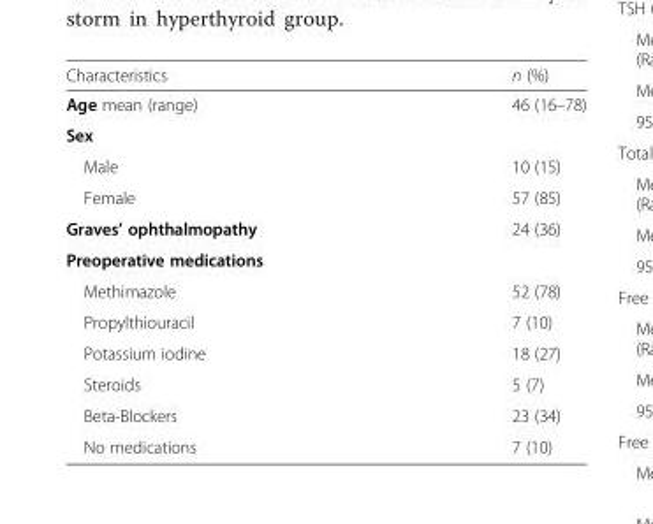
<table><thead><tr><td>Characteristics</td><td>n (%)</td></tr></thead><tbody><tr><td>Age mean (range)</td><td>46 (16–78)</td></tr><tr><td colspan="2">Sex</td></tr><tr><td>Male</td><td>10 (15)</td></tr><tr><td>Female</td><td>57 (85)</td></tr><tr><td>Graves’ ophthalmopathy</td><td>24 (36)</td></tr><tr><td colspan="2">Preoperative medications</td></tr><tr><td>Methimazole</td><td>52 (78)</td></tr><tr><td>Propylthiouracil</td><td>7 (10)</td></tr><tr><td>Potassium iodine</td><td>18 (27)</td></tr><tr><td>Steroids</td><td>5 (7)</td></tr><tr><td>Beta-Blockers</td><td>23 (34)</td></tr><tr><td>No medications</td><td>7 (10)</td></tr></tbody></table>